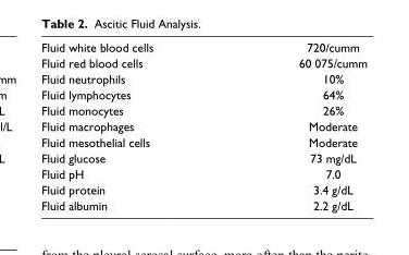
<table><tbody><tr><td>Fluid white blood cells</td><td>720/cumm</td></tr><tr><td>Fluid red blood cells</td><td>60 075/cumm</td></tr><tr><td>Fluid neutrophils</td><td>10%</td></tr><tr><td>Fluid lymphocytes</td><td>64%</td></tr><tr><td>Fluid monocytes</td><td>26%</td></tr><tr><td>Fluid macrophages</td><td>Moderate</td></tr><tr><td>Fluid mesothelial cells</td><td>Moderate</td></tr><tr><td>Fluid glucose</td><td>73 mg/dL</td></tr><tr><td>Fluid pH</td><td>7.0</td></tr><tr><td>Fluid protein</td><td>3.4 g/dL</td></tr><tr><td>Fluid albumin</td><td>2.2 g/dL</td></tr></tbody></table>